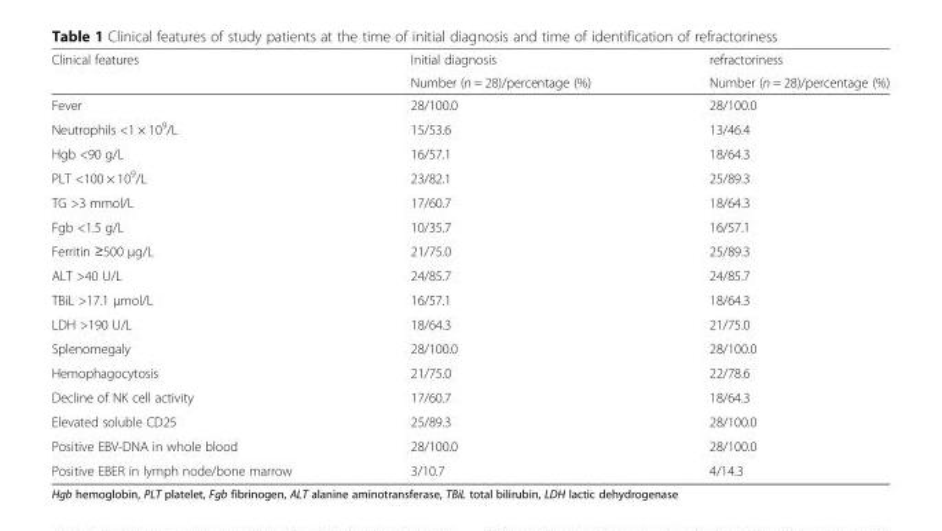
<table><thead><tr><td rowspan="2">Clinical features</td><td rowspan="2">Initial diagnosis Number (n = 28)/percentage (%)</td><td rowspan="2">refractoriness Number (n = 28)/percentage (%)</td></tr><tr></tr></thead><tbody><tr><td>Fever</td><td>28/100.0</td><td>28/100.0</td></tr><tr><td>Neutrophils &lt;1 × 10<sup>9</sup>/L</td><td>15/53.6</td><td>13/46.4</td></tr><tr><td>Hgb &lt;90 g/L</td><td>16/57.1</td><td>18/64.3</td></tr><tr><td>PLT &lt;100 × 10<sup>9</sup>/L</td><td>23/82.1</td><td>25/89.3</td></tr><tr><td>TG &gt;3 mmol/L</td><td>17/60.7</td><td>18/64.3</td></tr><tr><td>Fgb &lt;1.5 g/L</td><td>10/35.7</td><td>16/57.1</td></tr><tr><td>Ferritin ≥500 μg/L</td><td>21/75.0</td><td>25/89.3</td></tr><tr><td>ALT &gt;40 U/L</td><td>24/85.7</td><td>24/85.7</td></tr><tr><td>TBiL &gt;17.1 μmol/L</td><td>16/57.1</td><td>18/64.3</td></tr><tr><td>LDH &gt;190 U/L</td><td>18/64.3</td><td>21/75.0</td></tr><tr><td>Splenomegaly</td><td>28/100.0</td><td>28/100.0</td></tr><tr><td>Hemophagocytosis</td><td>21/75.0</td><td>22/78.6</td></tr><tr><td>Decline of NK cell activity</td><td>17/60.7</td><td>18/64.3</td></tr><tr><td>Elevated soluble CD25</td><td>25/89.3</td><td>28/100.0</td></tr><tr><td>Positive EBV-DNA in whole blood</td><td>28/100.0</td><td>28/100.0</td></tr><tr><td>Positive EBER in lymph node/bone marrow</td><td>3/10.7</td><td>4/14.3</td></tr></tbody></table>